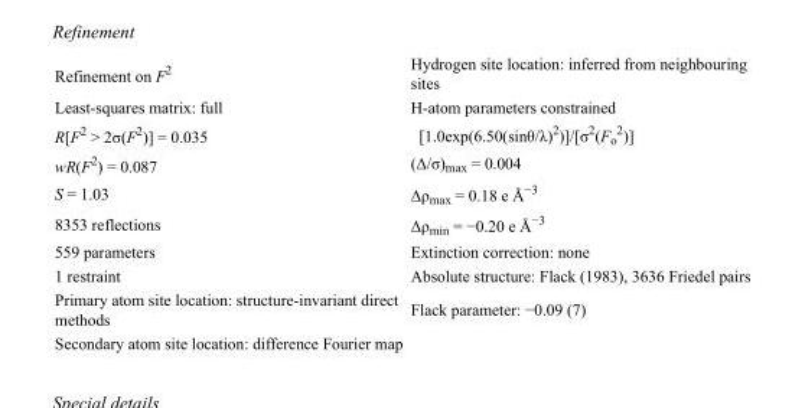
<table><tbody><tr><td>Refinement on F<sup>2</sup></td><td>Hydrogen site location: inferred from neighbouring sites</td></tr><tr><td>Least-squares matrix: full</td><td>H-atom parameters constrained</td></tr><tr><td>R[F<sup>2</sup> &gt; 2σ(F<sup>2</sup>)] = 0.035</td><td>[1.0exp(6.50(sinθ/λ)<sup>2</sup>)]/[σ<sup>2</sup>(F<sub>o</sub> <sup>2</sup>)]</td></tr><tr><td>wR(F<sup>2</sup>) = 0.087</td><td>(Δ/σ)<sub>max</sub> = 0.004</td></tr><tr><td>S = 1.03</td><td>Δρ<sub>max</sub> = 0.18 e Å<sup>−3</sup></td></tr><tr><td>8353 reflections</td><td>Δρ<sub>min</sub> = −0.20 e Å<sup>−3</sup></td></tr><tr><td>559 parameters</td><td>Extinction correction: none</td></tr><tr><td>1 restraint</td><td>Absolute structure: Flack (1983), 3636 Friedel pairs</td></tr><tr><td>Primary atom site location: structure-invariant direct methods</td><td>Flack parameter: −0.09 (7)</td></tr><tr><td>Secondary atom site location: difference Fourier map</td><td></td></tr></tbody></table>